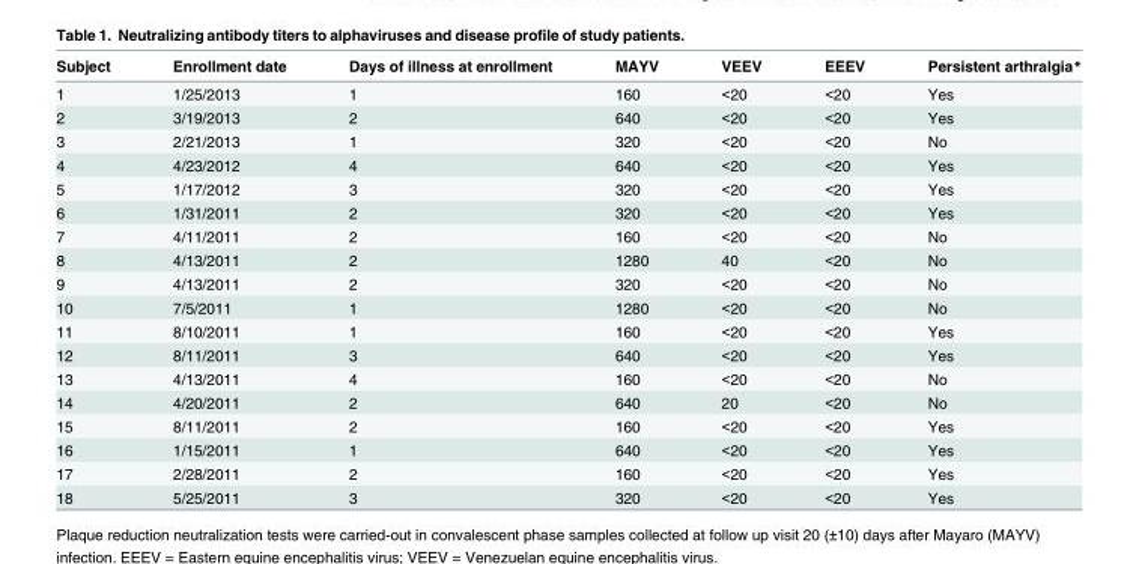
<table><thead><tr><td>Subject</td><td>Enrollment date</td><td>Days of illness at enrollment</td><td>MAYV</td><td>VEEV</td><td>EEEV</td><td>Persistent arthralgia*</td></tr></thead><tbody><tr><td>1</td><td>1/25/2013</td><td>1</td><td>160</td><td>&lt;20</td><td>&lt;20</td><td>Yes</td></tr><tr><td>2</td><td>3/19/2013</td><td>2</td><td>640</td><td>&lt;20</td><td>&lt;20</td><td>Yes</td></tr><tr><td>3</td><td>2/21/2013</td><td>1</td><td>320</td><td>&lt;20</td><td>&lt;20</td><td>No</td></tr><tr><td>4</td><td>4/23/2012</td><td>4</td><td>640</td><td>&lt;20</td><td>&lt;20</td><td>Yes</td></tr><tr><td>5</td><td>1/17/2012</td><td>3</td><td>320</td><td>&lt;20</td><td>&lt;20</td><td>Yes</td></tr><tr><td>6</td><td>1/31/2011</td><td>2</td><td>320</td><td>&lt;20</td><td>&lt;20</td><td>Yes</td></tr><tr><td>7</td><td>4/11/2011</td><td>2</td><td>160</td><td>&lt;20</td><td>&lt;20</td><td>No</td></tr><tr><td>8</td><td>4/13/2011</td><td>2</td><td>1280</td><td>40</td><td>&lt;20</td><td>No</td></tr><tr><td>9</td><td>4/13/2011</td><td>2</td><td>320</td><td>&lt;20</td><td>&lt;20</td><td>No</td></tr><tr><td>10</td><td>7/5/2011</td><td>1</td><td>1280</td><td>&lt;20</td><td>&lt;20</td><td>No</td></tr><tr><td>11</td><td>8/10/2011</td><td>1</td><td>160</td><td>&lt;20</td><td>&lt;20</td><td>Yes</td></tr><tr><td>12</td><td>8/11/2011</td><td>3</td><td>640</td><td>&lt;20</td><td>&lt;20</td><td>Yes</td></tr><tr><td>13</td><td>4/13/2011</td><td>4</td><td>160</td><td>&lt;20</td><td>&lt;20</td><td>No</td></tr><tr><td>14</td><td>4/20/2011</td><td>2</td><td>640</td><td>20</td><td>&lt;20</td><td>No</td></tr><tr><td>15</td><td>8/11/2011</td><td>2</td><td>160</td><td>&lt;20</td><td>&lt;20</td><td>Yes</td></tr><tr><td>16</td><td>1/15/2011</td><td>1</td><td>640</td><td>&lt;20</td><td>&lt;20</td><td>Yes</td></tr><tr><td>17</td><td>2/28/2011</td><td>2</td><td>160</td><td>&lt;20</td><td>&lt;20</td><td>Yes</td></tr><tr><td>18</td><td>5/25/2011</td><td>3</td><td>320</td><td>&lt;20</td><td>&lt;20</td><td>Yes</td></tr></tbody></table>